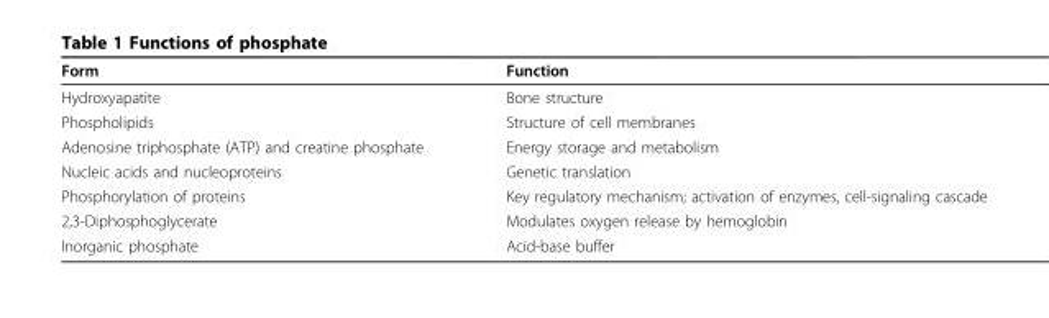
<table><thead><tr><td>Form</td><td>Function</td></tr></thead><tbody><tr><td>Hydroxyapatite</td><td>Bone structure</td></tr><tr><td>Phospholipids</td><td>Structure of cell membranes</td></tr><tr><td>Adenosine triphosphate (ATP) and creatine phosphate</td><td>Energy storage and metabolism</td></tr><tr><td>Nucleic acids and nucleoproteins</td><td>Genetic translation</td></tr><tr><td>Phosphorylation of proteins</td><td>Key regulatory mechanism; activation of enzymes, cell-signaling cascade</td></tr><tr><td>2,3-Diphosphoglycerate</td><td>Modulates oxygen release by hemoglobin</td></tr><tr><td>Inorganic phosphate</td><td>Acid-base buffer</td></tr></tbody></table>